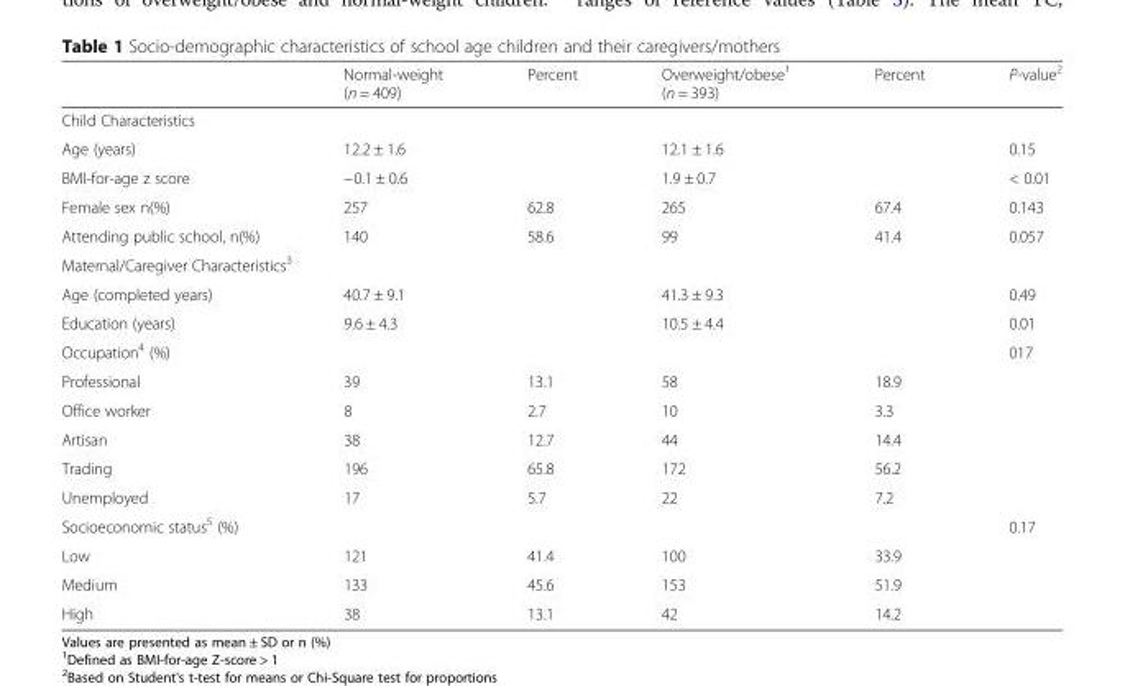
<table><thead><tr><td></td><td>Normal-weight (n = 409)</td><td>Percent</td><td>Overweight/obese<sup>1</sup> (n = 393)</td><td>Percent</td><td>P-value<sup>2</sup></td></tr></thead><tbody><tr><td colspan="6">Child Characteristics</td></tr><tr><td>Age (years)</td><td>12.2 ± 1.6</td><td></td><td>12.1 ± 1.6</td><td></td><td>0.15</td></tr><tr><td>BMI-for-age z score</td><td>−0.1 ± 0.6</td><td></td><td>1.9 ± 0.7</td><td></td><td>&lt; 0.01</td></tr><tr><td>Female sex n(%)</td><td>257</td><td>62.8</td><td>265</td><td>67.4</td><td>0.143</td></tr><tr><td>Attending public school, n(%)</td><td>140</td><td>58.6</td><td>99</td><td>41.4</td><td>0.057</td></tr><tr><td colspan="6">Maternal/Caregiver Characteristics<sup>3</sup></td></tr><tr><td>Age (completed years)</td><td>40.7 ± 9.1</td><td></td><td>41.3 ± 9.3</td><td></td><td>0.49</td></tr><tr><td>Education (years)</td><td>9.6 ± 4.3</td><td></td><td>10.5 ± 4.4</td><td></td><td>0.01</td></tr><tr><td>Occupation<sup>4</sup> (%)</td><td></td><td></td><td></td><td></td><td>017</td></tr><tr><td>Professional</td><td>39</td><td>13.1</td><td>58</td><td>18.9</td><td></td></tr><tr><td>Office worker</td><td>8</td><td>2.7</td><td>10</td><td>3.3</td><td></td></tr><tr><td>Artisan</td><td>38</td><td>12.7</td><td>44</td><td>14.4</td><td></td></tr><tr><td>Trading</td><td>196</td><td>65.8</td><td>172</td><td>56.2</td><td></td></tr><tr><td>Unemployed</td><td>17</td><td>5.7</td><td>22</td><td>7.2</td><td></td></tr><tr><td>Socioeconomic status<sup>5</sup> (%)</td><td></td><td></td><td></td><td></td><td>0.17</td></tr><tr><td>Low</td><td>121</td><td>41.4</td><td>100</td><td>33.9</td><td></td></tr><tr><td>Medium</td><td>133</td><td>45.6</td><td>153</td><td>51.9</td><td></td></tr><tr><td>High</td><td>38</td><td>13.1</td><td>42</td><td>14.2</td><td></td></tr></tbody></table>